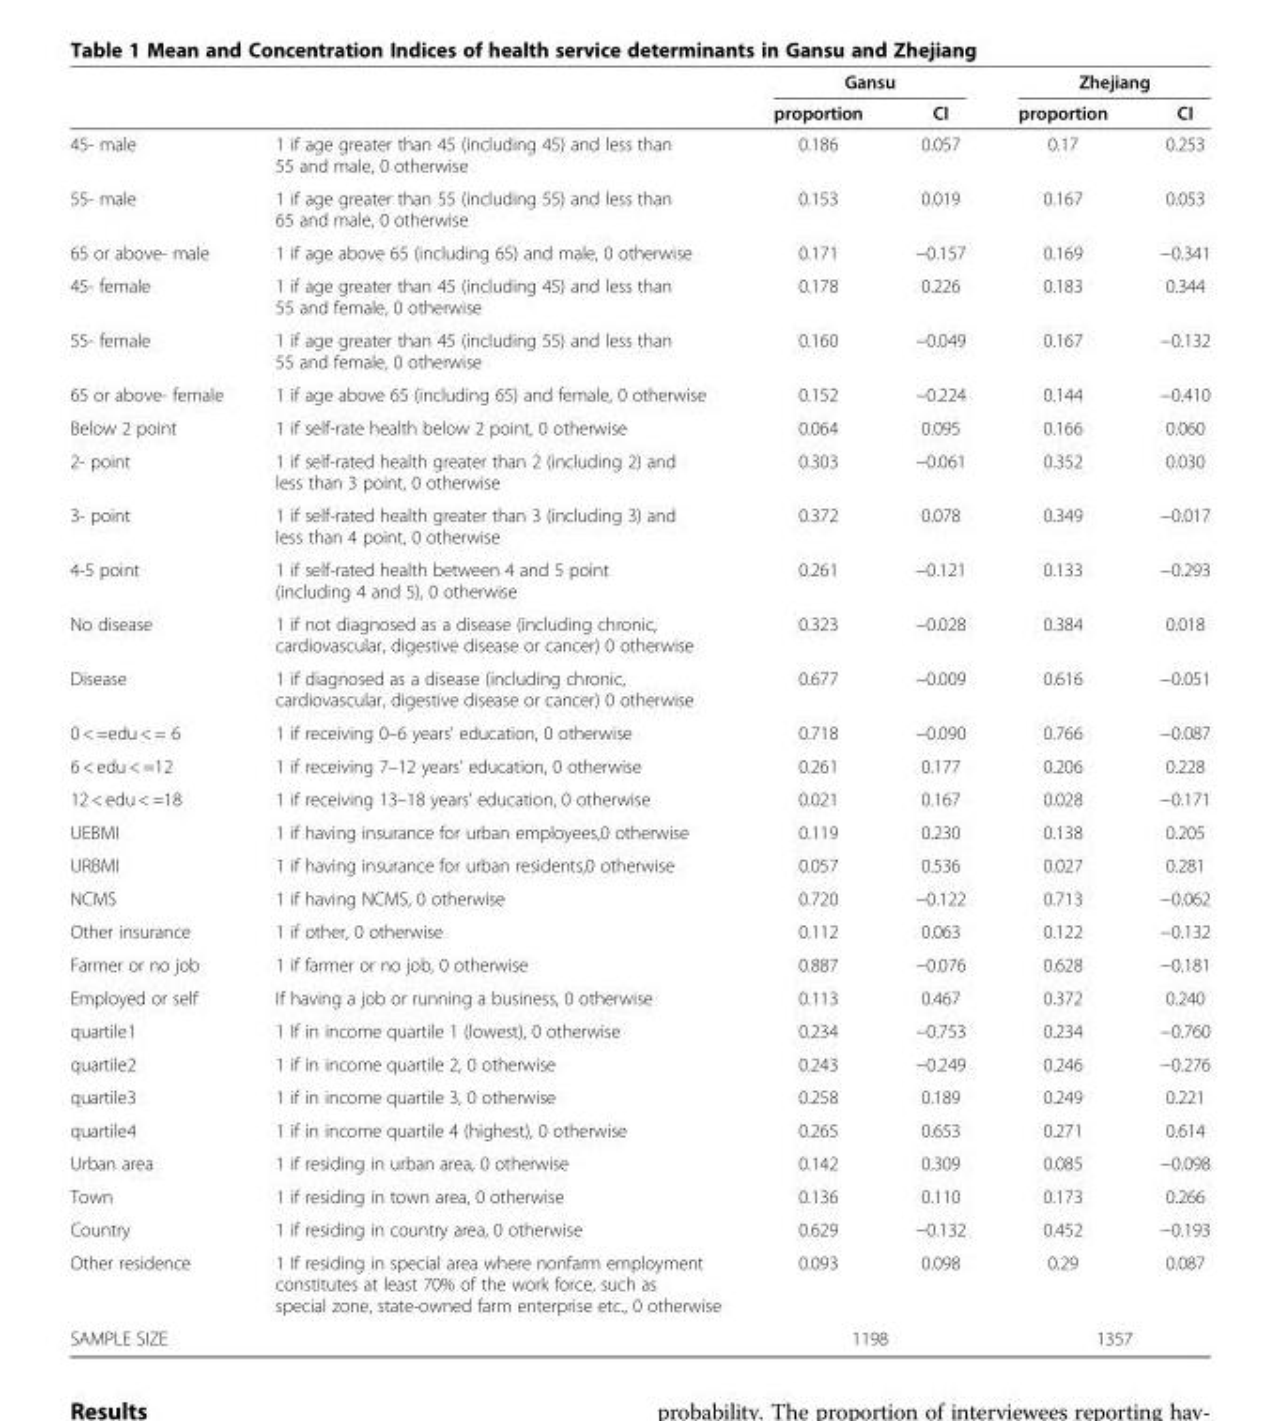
<table><thead><tr><td rowspan="2"></td><td rowspan="2"></td><td colspan="2">Gansu</td><td colspan="2">Zhejiang</td></tr><tr><td>proportion</td><td>CI</td><td>proportion</td><td>CI</td></tr></thead><tbody><tr><td>45- male</td><td>1 if age greater than 45 (including 45) and less than 55 and male, 0 otherwise</td><td>0.186</td><td>0.057</td><td>0.17</td><td>0.253</td></tr><tr><td>55- male</td><td>1 if age greater than 55 (including 55) and less than 65 and male, 0 otherwise</td><td>0.153</td><td>0.019</td><td>0.167</td><td>0.053</td></tr><tr><td>65 or above- male</td><td>1 if age above 65 (including 65) and male, 0 otherwise</td><td>0.171</td><td>−0.157</td><td>0.169</td><td>−0.341</td></tr><tr><td>45- female</td><td>1 if age greater than 45 (including 45) and less than 55 and female, 0 otherwise</td><td>0.178</td><td>0.226</td><td>0.183</td><td>0.344</td></tr><tr><td>55- female</td><td>1 if age greater than 45 (including 55) and less than 55 and female, 0 otherwise</td><td>0.160</td><td>−0.049</td><td>0.167</td><td>−0.132</td></tr><tr><td>65 or above- female</td><td>1 if age above 65 (including 65) and female, 0 otherwise</td><td>0.152</td><td>−0.224</td><td>0.144</td><td>−0.410</td></tr><tr><td>Below 2 point</td><td>1 if self-rate health below 2 point, 0 otherwise</td><td>0.064</td><td>0.095</td><td>0.166</td><td>0.060</td></tr><tr><td>2- point</td><td>1 if self-rated health greater than 2 (including 2) and less than 3 point, 0 otherwise</td><td>0.303</td><td>−0.061</td><td>0.352</td><td>0.030</td></tr><tr><td>3- point</td><td>1 if self-rated health greater than 3 (including 3) and less than 4 point, 0 otherwise</td><td>0.372</td><td>0.078</td><td>0.349</td><td>−0.017</td></tr><tr><td>4-5 point</td><td>1 if self-rated health between 4 and 5 point (including 4 and 5), 0 otherwise</td><td>0.261</td><td>−0.121</td><td>0.133</td><td>−0.293</td></tr><tr><td>No disease</td><td>1 if not diagnosed as a disease (including chronic, cardiovascular, digestive disease or cancer) 0 otherwise</td><td>0.323</td><td>−0.028</td><td>0.384</td><td>0.018</td></tr><tr><td>Disease</td><td>1 if diagnosed as a disease (including chronic, cardiovascular, digestive disease or cancer) 0 otherwise</td><td>0.677</td><td>−0.009</td><td>0.616</td><td>−0.051</td></tr><tr><td>0 &lt; =edu &lt; = 6</td><td>1 if receiving 0–6 years’ education, 0 otherwise</td><td>0.718</td><td>−0.090</td><td>0.766</td><td>−0.087</td></tr><tr><td>6 &lt; edu &lt; =12</td><td>1 if receiving 7–12 years’ education, 0 otherwise</td><td>0.261</td><td>0.177</td><td>0.206</td><td>0.228</td></tr><tr><td>12 &lt; edu &lt; =18</td><td>1 if receiving 13–18 years’ education, 0 otherwise</td><td>0.021</td><td>0.167</td><td>0.028</td><td>−0.171</td></tr><tr><td>UEBMI</td><td>1 if having insurance for urban employees,0 otherwise</td><td>0.119</td><td>0.230</td><td>0.138</td><td>0.205</td></tr><tr><td>URBMI</td><td>1 if having insurance for urban residents,0 otherwise</td><td>0.057</td><td>0.536</td><td>0.027</td><td>0.281</td></tr><tr><td>NCMS</td><td>1 if having NCMS, 0 otherwise</td><td>0.720</td><td>−0.122</td><td>0.713</td><td>−0.062</td></tr><tr><td>Other insurance</td><td>1 if other, 0 otherwise</td><td>0.112</td><td>0.063</td><td>0.122</td><td>−0.132</td></tr><tr><td>Farmer or no job</td><td>1 if farmer or no job, 0 otherwise</td><td>0.887</td><td>−0.076</td><td>0.628</td><td>−0.181</td></tr><tr><td>Employed or self</td><td>If having a job or running a business, 0 otherwise</td><td>0.113</td><td>0.467</td><td>0.372</td><td>0.240</td></tr><tr><td>quartile1</td><td>1 If in income quartile 1 (lowest), 0 otherwise</td><td>0.234</td><td>−0.753</td><td>0.234</td><td>−0.760</td></tr><tr><td>quartile2</td><td>1 if in income quartile 2, 0 otherwise</td><td>0.243</td><td>−0.249</td><td>0.246</td><td>−0.276</td></tr><tr><td>quartile3</td><td>1 if in income quartile 3, 0 otherwise</td><td>0.258</td><td>0.189</td><td>0.249</td><td>0.221</td></tr><tr><td>quartile4</td><td>1 if in income quartile 4 (highest), 0 otherwise</td><td>0.265</td><td>0.653</td><td>0.271</td><td>0.614</td></tr><tr><td>Urban area</td><td>1 if residing in urban area, 0 otherwise</td><td>0.142</td><td>0.309</td><td>0.085</td><td>−0.098</td></tr><tr><td>Town</td><td>1 if residing in town area, 0 otherwise</td><td>0.136</td><td>0.110</td><td>0.173</td><td>0.266</td></tr><tr><td>Country</td><td>1 if residing in country area, 0 otherwise</td><td>0.629</td><td>−0.132</td><td>0.452</td><td>−0.193</td></tr><tr><td>Other residence</td><td>1 If residing in special area where nonfarm employment constitutes at least 70% of the work force, such as special zone, state-owned farm enterprise etc., 0 otherwise</td><td>0.093</td><td>0.098</td><td>0.29</td><td>0.087</td></tr><tr><td>SAMPLE SIZE</td><td></td><td colspan="2">1198</td><td colspan="2">1357</td></tr></tbody></table>